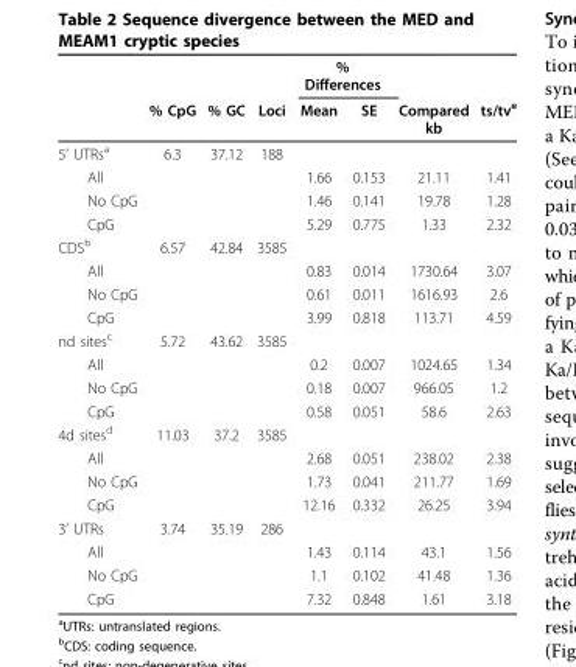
<table><thead><tr><td rowspan="2"></td><td rowspan="2">% CpG</td><td rowspan="2">% GC</td><td rowspan="2">Loci</td><td colspan="2">% Differences</td><td rowspan="2">Compared kb</td><td rowspan="2">ts/tv<sup>e</sup></td></tr><tr><td>Mean</td><td>SE</td></tr></thead><tbody><tr><td>5’ UTRs<sup>a</sup></td><td>6.3</td><td>37.12</td><td>188</td><td></td><td></td><td></td><td></td></tr><tr><td>All</td><td></td><td></td><td></td><td>1.66</td><td>0.153</td><td>21.11</td><td>1.41</td></tr><tr><td>No CpG</td><td></td><td></td><td></td><td>1.46</td><td>0.141</td><td>19.78</td><td>1.28</td></tr><tr><td>CpG</td><td></td><td></td><td></td><td>5.29</td><td>0.775</td><td>1.33</td><td>2.32</td></tr><tr><td>CDS<sup>b</sup></td><td>6.57</td><td>42.84</td><td>3585</td><td></td><td></td><td></td><td></td></tr><tr><td>All</td><td></td><td></td><td></td><td>0.83</td><td>0.014</td><td>1730.64</td><td>3.07</td></tr><tr><td>No CpG</td><td></td><td></td><td></td><td>0.61</td><td>0.011</td><td>1616.93</td><td>2.6</td></tr><tr><td>CpG</td><td></td><td></td><td></td><td>3.99</td><td>0.818</td><td>113.71</td><td>4.59</td></tr><tr><td>nd sites<sup>c</sup></td><td>5.72</td><td>43.62</td><td>3585</td><td></td><td></td><td></td><td></td></tr><tr><td>All</td><td></td><td></td><td></td><td>0.2</td><td>0.007</td><td>1024.65</td><td>1.34</td></tr><tr><td>No CpG</td><td></td><td></td><td></td><td>0.18</td><td>0.007</td><td>966.05</td><td>1.2</td></tr><tr><td>CpG</td><td></td><td></td><td></td><td>0.58</td><td>0.051</td><td>58.6</td><td>2.63</td></tr><tr><td>4d sites<sup>d</sup></td><td>11.03</td><td>37.2</td><td>3585</td><td></td><td></td><td></td><td></td></tr><tr><td>All</td><td></td><td></td><td></td><td>2.68</td><td>0.051</td><td>238.02</td><td>2.38</td></tr><tr><td>No CpG</td><td></td><td></td><td></td><td>1.73</td><td>0.041</td><td>211.77</td><td>1.69</td></tr><tr><td>CpG</td><td></td><td></td><td></td><td>12.16</td><td>0.332</td><td>26.25</td><td>3.94</td></tr><tr><td>3’ UTRs</td><td>3.74</td><td>35.19</td><td>286</td><td></td><td></td><td></td><td></td></tr><tr><td>All</td><td></td><td></td><td></td><td>1.43</td><td>0.114</td><td>43.1</td><td>1.56</td></tr><tr><td>No CpG</td><td></td><td></td><td></td><td>1.1</td><td>0.102</td><td>41.48</td><td>1.36</td></tr><tr><td>CpG</td><td></td><td></td><td></td><td>7.32</td><td>0.848</td><td>1.61</td><td>3.18</td></tr></tbody></table>